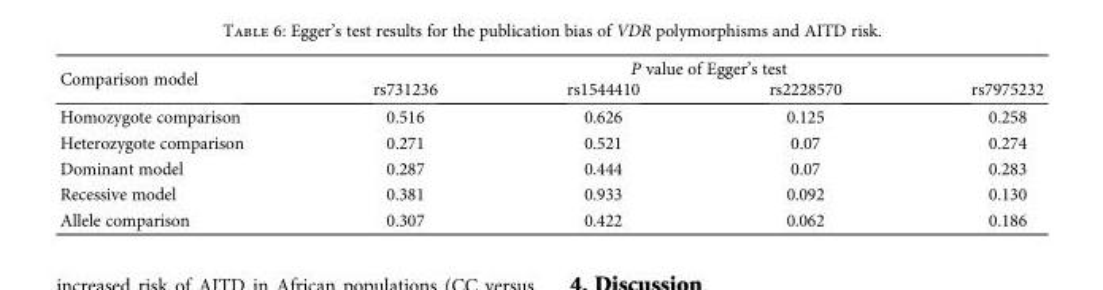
<table><thead><tr><td rowspan="2">Comparison model</td><td colspan="4">P value of Egger’s test</td></tr><tr><td>rs731236</td><td>rs1544410</td><td>rs2228570</td><td>rs7975232</td></tr></thead><tbody><tr><td>Homozygote comparison</td><td>0.516</td><td>0.626</td><td>0.125</td><td>0.258</td></tr><tr><td>Heterozygote comparison</td><td>0.271</td><td>0.521</td><td>0.07</td><td>0.274</td></tr><tr><td>Dominant model</td><td>0.287</td><td>0.444</td><td>0.07</td><td>0.283</td></tr><tr><td>Recessive model</td><td>0.381</td><td>0.933</td><td>0.092</td><td>0.130</td></tr><tr><td>Allele comparison</td><td>0.307</td><td>0.422</td><td>0.062</td><td>0.186</td></tr></tbody></table>